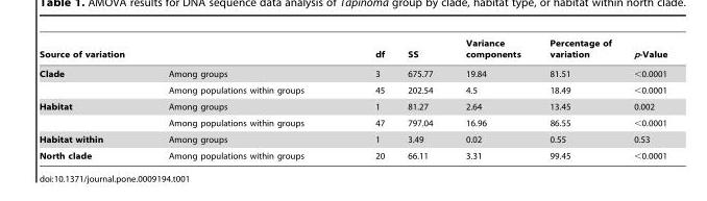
<table><thead><tr><td>Source of variation</td><td></td><td>df</td><td>SS</td><td>Variance components</td><td>Percentage of variation</td><td>p-Value</td></tr></thead><tbody><tr><td rowspan="2">Clade</td><td>Among groups</td><td>3</td><td>675.77</td><td>19.84</td><td>81.51</td><td>&lt;0.0001</td></tr><tr><td>Among populations within groups</td><td>45</td><td>202.54</td><td>4.5</td><td>18.49</td><td>&lt;0.0001</td></tr><tr><td rowspan="2">Habitat</td><td>Among groups</td><td>1</td><td>81.27</td><td>2.64</td><td>13.45</td><td>0.002</td></tr><tr><td>Among populations within groups</td><td>47</td><td>797.04</td><td>16.96</td><td>86.55</td><td>&lt;0.0001</td></tr><tr><td>Habitat within</td><td>Among groups</td><td>1</td><td>3.49</td><td>0.02</td><td>0.55</td><td>0.53</td></tr><tr><td>North clade</td><td>Among populations within groups</td><td>20</td><td>66.11</td><td>3.31</td><td>99.45</td><td>&lt;0.0001</td></tr></tbody></table>